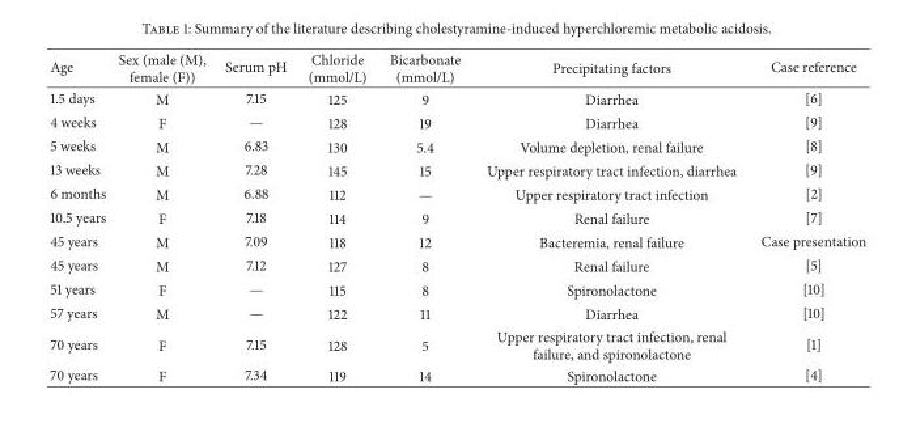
<table><thead><tr><td>Age</td><td>Sex (male (M), female (F))</td><td>Serum pH</td><td>Chloride (mmol/L)</td><td>Bicarbonate (mmol/L)</td><td>Precipitating factors</td><td>Case reference</td></tr></thead><tbody><tr><td>1.5 days</td><td>M</td><td>7.15</td><td>125</td><td>9</td><td>Diarrhea</td><td>[6]</td></tr><tr><td>4 weeks</td><td>F</td><td>—</td><td>128</td><td>19</td><td>Diarrhea</td><td>[9]</td></tr><tr><td>5 weeks</td><td>M</td><td>6.83</td><td>130</td><td>5.4</td><td>Volume depletion, renal failure</td><td>[8]</td></tr><tr><td>13 weeks</td><td>M</td><td>7.28</td><td>145</td><td>15</td><td>Upper respiratory tract infection, diarrhea</td><td>[9]</td></tr><tr><td>6 months</td><td>M</td><td>6.88</td><td>112</td><td>—</td><td>Upper respiratory tract infection</td><td>[2]</td></tr><tr><td>10.5 years</td><td>F</td><td>7.18</td><td>114</td><td>9</td><td>Renal failure</td><td>[7]</td></tr><tr><td>45 years</td><td>M</td><td>7.09</td><td>118</td><td>12</td><td>Bacteremia, renal failure</td><td>Case presentation</td></tr><tr><td>45 years</td><td>M</td><td>7.12</td><td>127</td><td>8</td><td>Renal failure</td><td>[5]</td></tr><tr><td>51 years</td><td>F</td><td>—</td><td>115</td><td>8</td><td>Spironolactone</td><td>[10]</td></tr><tr><td>57 years</td><td>M</td><td>—</td><td>122</td><td>11</td><td>Diarrhea</td><td>[10]</td></tr><tr><td>70 years</td><td>F</td><td>7.15</td><td>128</td><td>5</td><td>Upper respiratory tract infection, renal failure, and spironolactone</td><td>[1]</td></tr><tr><td>70 years</td><td>F</td><td>7.34</td><td>119</td><td>14</td><td>Spironolactone</td><td>[4]</td></tr></tbody></table>